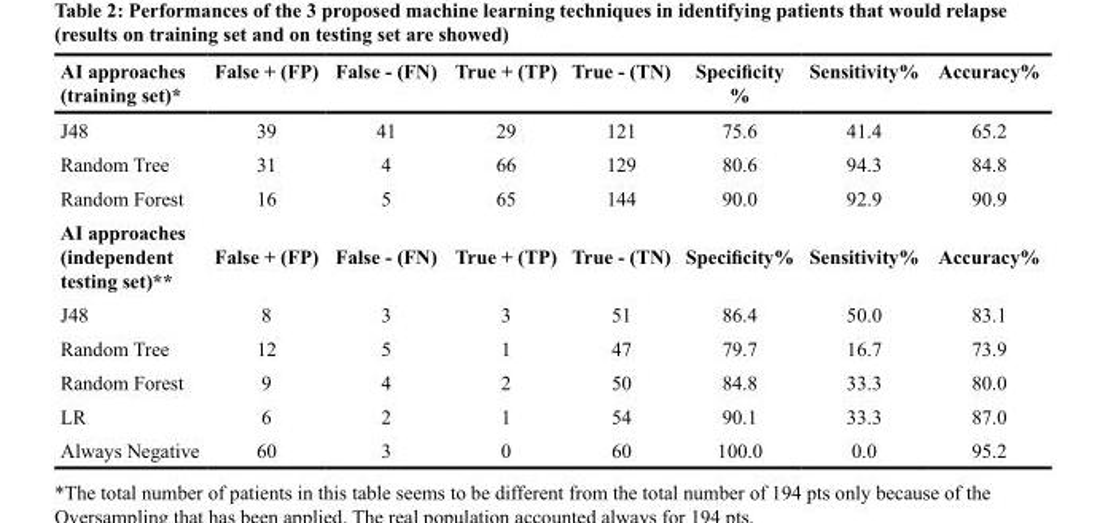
<table><thead><tr><td>AI approaches (training set)*</td><td>False + (FP)</td><td>False - (FN)</td><td>True + (TP)</td><td>True - (TN)</td><td>Specificity %</td><td>Sensitivity%</td><td>Accuracy%</td></tr></thead><tbody><tr><td>J48</td><td>39</td><td>41</td><td>29</td><td>121</td><td>75.6</td><td>41.4</td><td>65.2</td></tr><tr><td>Random Tree</td><td>31</td><td>4</td><td>66</td><td>129</td><td>80.6</td><td>94.3</td><td>84.8</td></tr><tr><td>Random Forest</td><td>16</td><td>5</td><td>65</td><td>144</td><td>90.0</td><td>92.9</td><td>90.9</td></tr><tr><td>AI approaches (independent testing set)**</td><td>False + (FP)</td><td>False - (FN)</td><td>True + (TP)</td><td>True - (TN)</td><td>Specificity%</td><td>Sensitivity%</td><td>Accuracy%</td></tr><tr><td>J48</td><td>8</td><td>3</td><td>3</td><td>51</td><td>86.4</td><td>50.0</td><td>83.1</td></tr><tr><td>Random Tree</td><td>12</td><td>5</td><td>1</td><td>47</td><td>79.7</td><td>16.7</td><td>73.9</td></tr><tr><td>Random Forest</td><td>9</td><td>4</td><td>2</td><td>50</td><td>84.8</td><td>33.3</td><td>80.0</td></tr><tr><td>LR</td><td>6</td><td>2</td><td>1</td><td>54</td><td>90.1</td><td>33.3</td><td>87.0</td></tr><tr><td>Always Negative</td><td>60</td><td>3</td><td>0</td><td>60</td><td>100.0</td><td>0.0</td><td>95.2</td></tr></tbody></table>